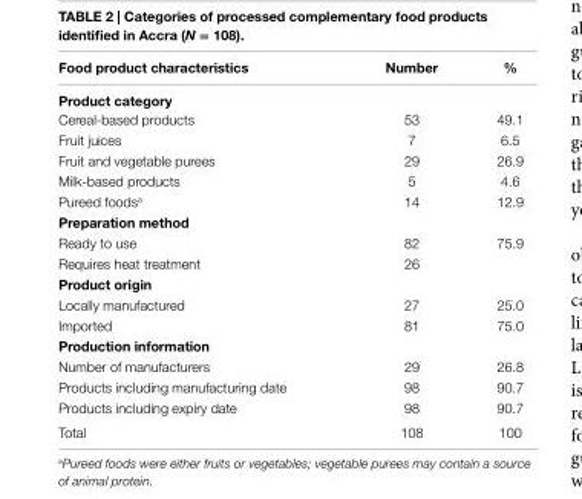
<table><thead><tr><td>Food product characteristics</td><td>number</td><td>%</td></tr></thead><tbody><tr><td colspan="3">Product category</td></tr><tr><td>Cereal-based products</td><td>53</td><td>49.1</td></tr><tr><td>Fruit juices</td><td>7</td><td>6.5</td></tr><tr><td>Fruit and vegetable purees</td><td>29</td><td>26.9</td></tr><tr><td>Milk-based products</td><td>5</td><td>4.6</td></tr><tr><td>Pureed foods<sup>a</sup></td><td>14</td><td>12.9</td></tr><tr><td colspan="3">Preparation method</td></tr><tr><td>Ready to use</td><td>82</td><td>75.9</td></tr><tr><td>Requires heat treatment</td><td>26</td><td></td></tr><tr><td colspan="3">Product origin</td></tr><tr><td>Locally manufactured</td><td>27</td><td>25.0</td></tr><tr><td>Imported</td><td>81</td><td>75.0</td></tr><tr><td colspan="3">Production information</td></tr><tr><td>Number of manufacturers</td><td>29</td><td>26.8</td></tr><tr><td>Products including manufacturing date</td><td>98</td><td>90.7</td></tr><tr><td>Products including expiry date</td><td>98</td><td>90.7</td></tr><tr><td>Total</td><td>108</td><td>100</td></tr></tbody></table>